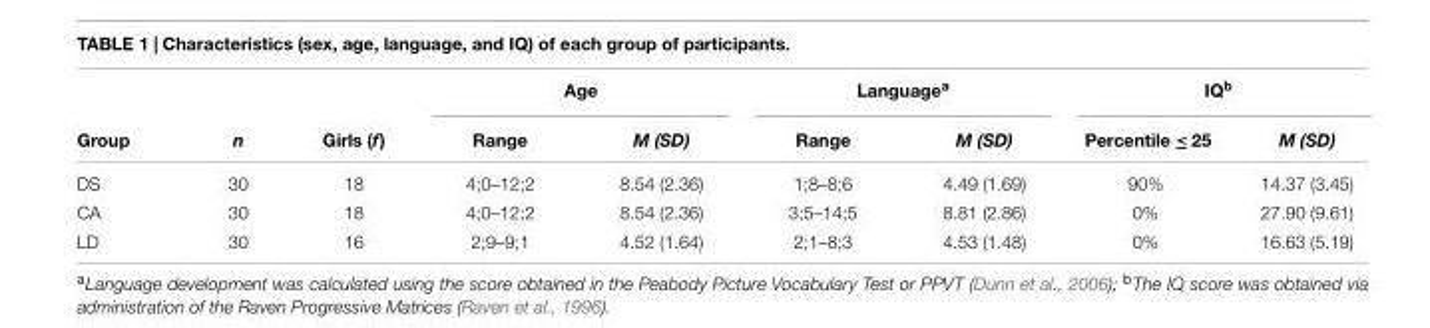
<table><thead><tr><td rowspan="2">Group</td><td rowspan="2">n</td><td rowspan="2">Girls (f)</td><td colspan="2">Age</td><td colspan="2">Language<sup>a</sup></td><td colspan="2">IQ<sup>b</sup></td></tr><tr><td>Range</td><td>M (SD)</td><td>Range</td><td>M (SD)</td><td>Percentile ≤ 25</td><td>M (SD)</td></tr></thead><tbody><tr><td>DS</td><td>30</td><td>18</td><td>4;0–12;2</td><td>8.54 (2.36)</td><td>1;8–8;6</td><td>4.49 (1.69)</td><td>90%</td><td>14.37 (3.45)</td></tr><tr><td>CA</td><td>30</td><td>18</td><td>4;0–12;2</td><td>8.54 (2.36)</td><td>3;5–14;5</td><td>8.81 (2.86)</td><td>0%</td><td>27.90 (9.61)</td></tr><tr><td>LD</td><td>30</td><td>16</td><td>2;9–9;1</td><td>4.52 (1.64)</td><td>2;1–8;3</td><td>4.53 (1.48)</td><td>0%</td><td>16.63 (5.19)</td></tr></tbody></table>